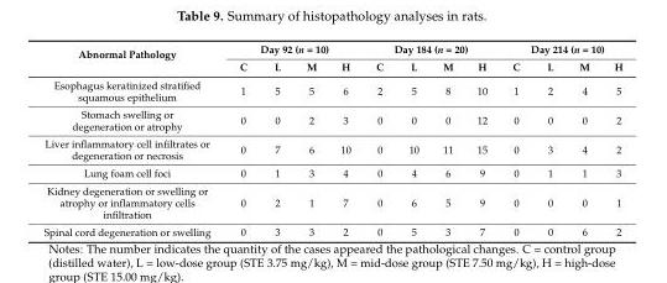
<table><thead><tr><td rowspan="2">Abnormal Pathology</td><td colspan="4">Day 92 (n = 10)</td><td colspan="4">Day 184 (n = 20)</td><td colspan="4">Day 214 (n = 10)</td></tr><tr><td>C</td><td>L</td><td>M</td><td>H</td><td>C</td><td>L</td><td>M</td><td>H</td><td>C</td><td>L</td><td>M</td><td>H</td></tr></thead><tbody><tr><td>Esophagus keratinized stratified squamous epithelium</td><td>1</td><td>5</td><td>5</td><td>6</td><td>2</td><td>5</td><td>8</td><td>10</td><td>1</td><td>2</td><td>4</td><td>5</td></tr><tr><td>Stomach swelling or degeneration or atrophy</td><td>0</td><td>0</td><td>2</td><td>3</td><td>0</td><td>0</td><td>0</td><td>12</td><td>0</td><td>0</td><td>0</td><td>2</td></tr><tr><td>Liver inflammatory cell infiltrates or degeneration or necrosis</td><td>0</td><td>7</td><td>6</td><td>10</td><td>0</td><td>10</td><td>11</td><td>15</td><td>0</td><td>3</td><td>4</td><td>2</td></tr><tr><td>Lung foam cell foci</td><td>0</td><td>1</td><td>3</td><td>4</td><td>0</td><td>4</td><td>6</td><td>9</td><td>0</td><td>1</td><td>1</td><td>3</td></tr><tr><td>Kidney degeneration or swelling or atrophy or inflammatory cells infiltration</td><td>0</td><td>2</td><td>1</td><td>7</td><td>0</td><td>6</td><td>5</td><td>9</td><td>0</td><td>0</td><td>0</td><td>1</td></tr><tr><td>Spinal cord degeneration or swelling</td><td>0</td><td>3</td><td>3</td><td>2</td><td>0</td><td>5</td><td>3</td><td>7</td><td>0</td><td>0</td><td>6</td><td>2</td></tr></tbody></table>